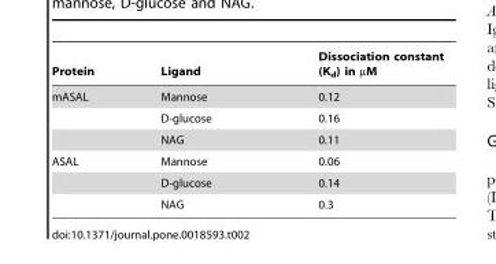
<table><thead><tr><td>Protein</td><td>Ligand</td><td>Dissociation constant (K<sub>d</sub>) in µM</td></tr></thead><tbody><tr><td rowspan="3">mASAL</td><td>Mannose</td><td>0.12</td></tr><tr><td>D-glucose</td><td>0.16</td></tr><tr><td>NAG</td><td>0.11</td></tr><tr><td rowspan="3">ASAL</td><td>Mannose</td><td>0.06</td></tr><tr><td>D-glucose</td><td>0.14</td></tr><tr><td>NAG</td><td>0.3</td></tr></tbody></table>